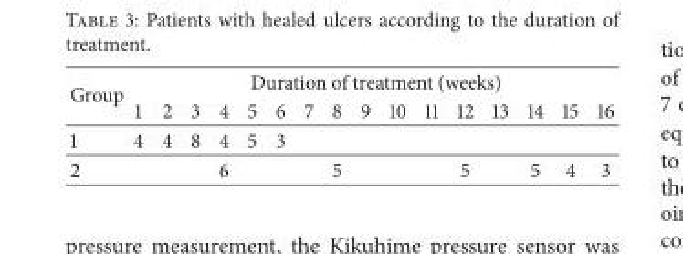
<table><thead><tr><td rowspan="2">Group</td><td colspan="16">Duration of treatment (weeks)</td></tr><tr><td>1</td><td>2</td><td>3</td><td>4</td><td>5</td><td>6</td><td>7</td><td>8</td><td>9</td><td>10</td><td>11</td><td>12</td><td>13</td><td>14</td><td>15</td><td>16</td></tr></thead><tbody><tr><td>1</td><td>4</td><td>4</td><td>8</td><td>4</td><td>5</td><td>3</td><td></td><td></td><td></td><td></td><td></td><td></td><td></td><td></td><td></td><td></td></tr><tr><td>2</td><td></td><td></td><td></td><td>6</td><td></td><td></td><td></td><td>5</td><td></td><td></td><td></td><td>5</td><td></td><td>5</td><td>4</td><td>3</td></tr></tbody></table>